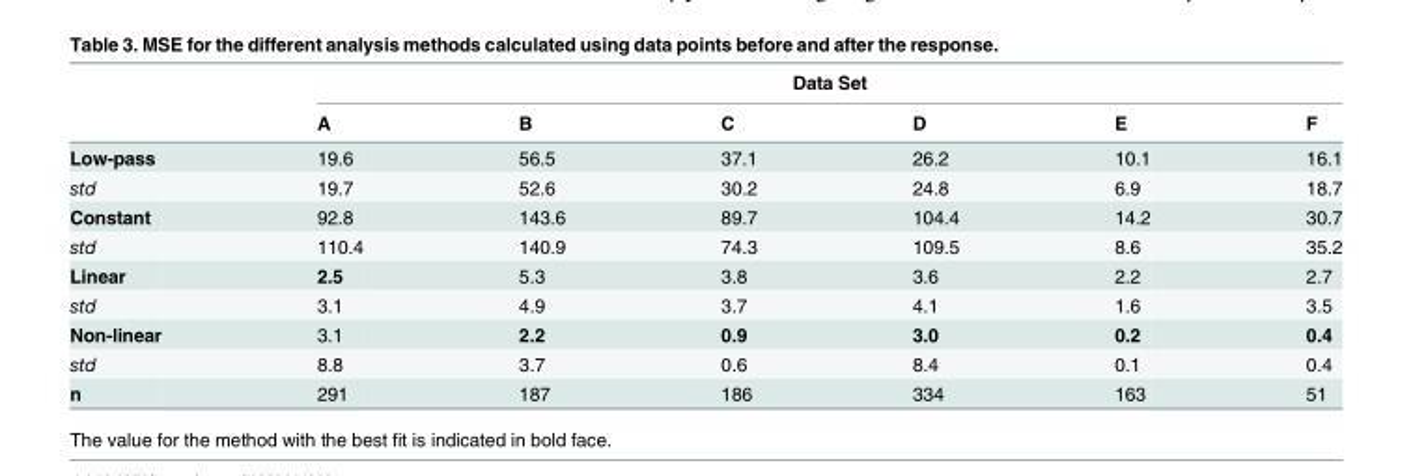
<table><thead><tr><td rowspan="2"></td><td colspan="6">Data Set</td></tr><tr><td>A</td><td>B</td><td>C</td><td>D</td><td>E</td><td>F</td></tr></thead><tbody><tr><td>Low-pass</td><td>19.6</td><td>56.5</td><td>37.1</td><td>26.2</td><td>10.1</td><td>16.1</td></tr><tr><td>std</td><td>19.7</td><td>52.6</td><td>30.2</td><td>24.8</td><td>6.9</td><td>18.7</td></tr><tr><td>Constant</td><td>92.8</td><td>143.6</td><td>89.7</td><td>104.4</td><td>14.2</td><td>30.7</td></tr><tr><td>std</td><td>110.4</td><td>140.9</td><td>74.3</td><td>109.5</td><td>8.6</td><td>35.2</td></tr><tr><td>Linear</td><td>2.5</td><td>5.3</td><td>3.8</td><td>3.6</td><td>2.2</td><td>2.7</td></tr><tr><td>std</td><td>3.1</td><td>4.9</td><td>3.7</td><td>4.1</td><td>1.6</td><td>3.5</td></tr><tr><td>Non-linear</td><td>3.1</td><td>2.2</td><td>0.9</td><td>3.0</td><td>0.2</td><td>0.4</td></tr><tr><td>std</td><td>8.8</td><td>3.7</td><td>0.6</td><td>8.4</td><td>0.1</td><td>0.4</td></tr><tr><td>n</td><td>291</td><td>187</td><td>186</td><td>334</td><td>163</td><td>51</td></tr></tbody></table>